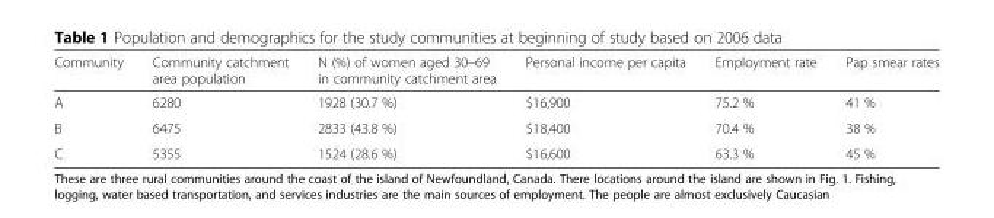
<table><thead><tr><td>Community</td><td>Community catchment area population</td><td>N (%) of women aged 30–69 in community catchment area</td><td>Personal income per capita</td><td>Employment rate</td><td>Pap smear rates</td></tr></thead><tbody><tr><td>A</td><td>6280</td><td>1928 (30.7 %)</td><td>$16,900</td><td>75.2 %</td><td>41 %</td></tr><tr><td>B</td><td>6475</td><td>2833 (43.8 %)</td><td>$18,400</td><td>70.4 %</td><td>38 %</td></tr><tr><td>C</td><td>5355</td><td>1524 (28.6 %)</td><td>$16,600</td><td>63.3 %</td><td>45 %</td></tr></tbody></table>